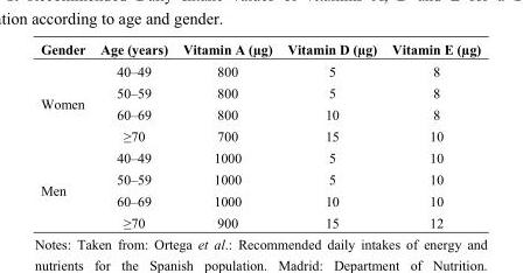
<table><thead><tr><td>Gender</td><td>Age (years)</td><td>Vitamin A (µg)</td><td>Vitamin D (µg)</td><td>Vitamin E (µg)</td></tr></thead><tbody><tr><td rowspan="4">Women</td><td>40–49</td><td>800</td><td>5</td><td>8</td></tr><tr><td>50–59</td><td>800</td><td>5</td><td>8</td></tr><tr><td>60–69</td><td>800</td><td>10</td><td>8</td></tr><tr><td>≥70</td><td>700</td><td>15</td><td>10</td></tr><tr><td rowspan="4">Men</td><td>40–49</td><td>1000</td><td>5</td><td>10</td></tr><tr><td>50–59</td><td>1000</td><td>5</td><td>10</td></tr><tr><td>60–69</td><td>1000</td><td>10</td><td>10</td></tr><tr><td>≥70</td><td>900</td><td>15</td><td>12</td></tr></tbody></table>